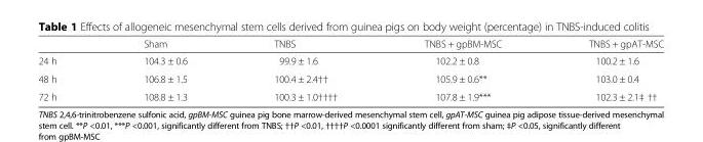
<table><thead><tr><td></td><td>Sham</td><td>TNBS</td><td>TNBS + gpBM-MSC</td><td>TNBS + gpAT-MSC</td></tr></thead><tbody><tr><td>24 h</td><td>104.3 ± 0.6</td><td>99.9 ± 1.6</td><td>102.2 ± 0.8</td><td>100.2 ± 1.6</td></tr><tr><td>48 h</td><td>106.8 ± 1.5</td><td>100.4 ± 2.4††</td><td>105.9 ± 0.6**</td><td>103.0 ± 0.4</td></tr><tr><td>72 h</td><td>108.8 ± 1.3</td><td>100.3 ± 1.0††††</td><td>107.8 ± 1.9***</td><td>102.3 ± 2.1‡ ††</td></tr></tbody></table>